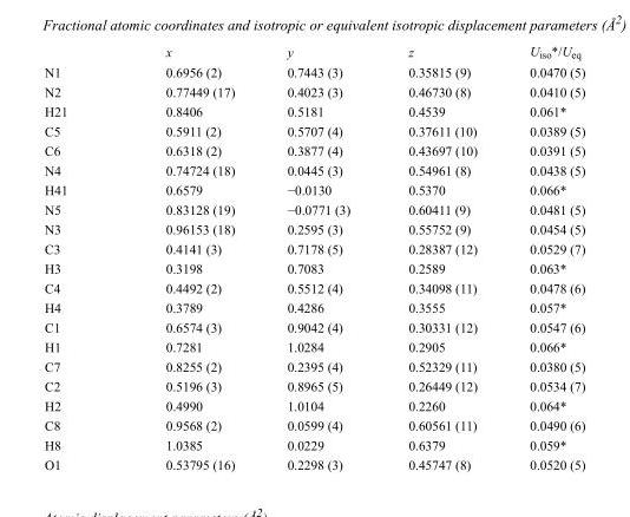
<table><thead><tr><td></td><td>x</td><td>y</td><td>z</td><td>U<sub>iso</sub>*/U<sub>eq</sub></td></tr></thead><tbody><tr><td>N1</td><td>0.6956 (2)</td><td>0.7443 (3)</td><td>0.35815 (9)</td><td>0.0470 (5)</td></tr><tr><td>N2</td><td>0.77449 (17)</td><td>0.4023 (3)</td><td>0.46730 (8)</td><td>0.0410 (5)</td></tr><tr><td>H21</td><td>0.8406</td><td>0.5181</td><td>0.4539</td><td>0.061*</td></tr><tr><td>C5</td><td>0.5911 (2)</td><td>0.5707 (4)</td><td>0.37611 (10)</td><td>0.0389 (5)</td></tr><tr><td>C6</td><td>0.6318 (2)</td><td>0.3877 (4)</td><td>0.43697 (10)</td><td>0.0391 (5)</td></tr><tr><td>N4</td><td>0.74724 (18)</td><td>0.0445 (3)</td><td>0.54961 (8)</td><td>0.0438 (5)</td></tr><tr><td>H41</td><td>0.6579</td><td>−0.0130</td><td>0.5370</td><td>0.066*</td></tr><tr><td>N5</td><td>0.83128 (19)</td><td>−0.0771 (3)</td><td>0.60411 (9)</td><td>0.0481 (5)</td></tr><tr><td>N3</td><td>0.96153 (18)</td><td>0.2595 (3)</td><td>0.55752 (9)</td><td>0.0454 (5)</td></tr><tr><td>C3</td><td>0.4141 (3)</td><td>0.7178 (5)</td><td>0.28387 (12)</td><td>0.0529 (7)</td></tr><tr><td>H3</td><td>0.3198</td><td>0.7083</td><td>0.2589</td><td>0.063*</td></tr><tr><td>C4</td><td>0.4492 (2)</td><td>0.5512 (4)</td><td>0.34098 (11)</td><td>0.0478 (6)</td></tr><tr><td>H4</td><td>0.3789</td><td>0.4286</td><td>0.3555</td><td>0.057*</td></tr><tr><td>C1</td><td>0.6574 (3)</td><td>0.9042 (4)</td><td>0.30331 (12)</td><td>0.0547 (6)</td></tr><tr><td>H1</td><td>0.7281</td><td>1.0284</td><td>0.2905</td><td>0.066*</td></tr><tr><td>C7</td><td>0.8255 (2)</td><td>0.2395 (4)</td><td>0.52329 (11)</td><td>0.0380 (5)</td></tr><tr><td>C2</td><td>0.5196 (3)</td><td>0.8965 (5)</td><td>0.26449 (12)</td><td>0.0534 (7)</td></tr><tr><td>H2</td><td>0.4990</td><td>1.0104</td><td>0.2260</td><td>0.064*</td></tr><tr><td>C8</td><td>0.9568 (2)</td><td>0.0599 (4)</td><td>0.60561 (11)</td><td>0.0490 (6)</td></tr><tr><td>H8</td><td>1.0385</td><td>0.0229</td><td>0.6379</td><td>0.059*</td></tr><tr><td>O1</td><td>0.53795 (16)</td><td>0.2298 (3)</td><td>0.45747 (8)</td><td>0.0520 (5)</td></tr></tbody></table>